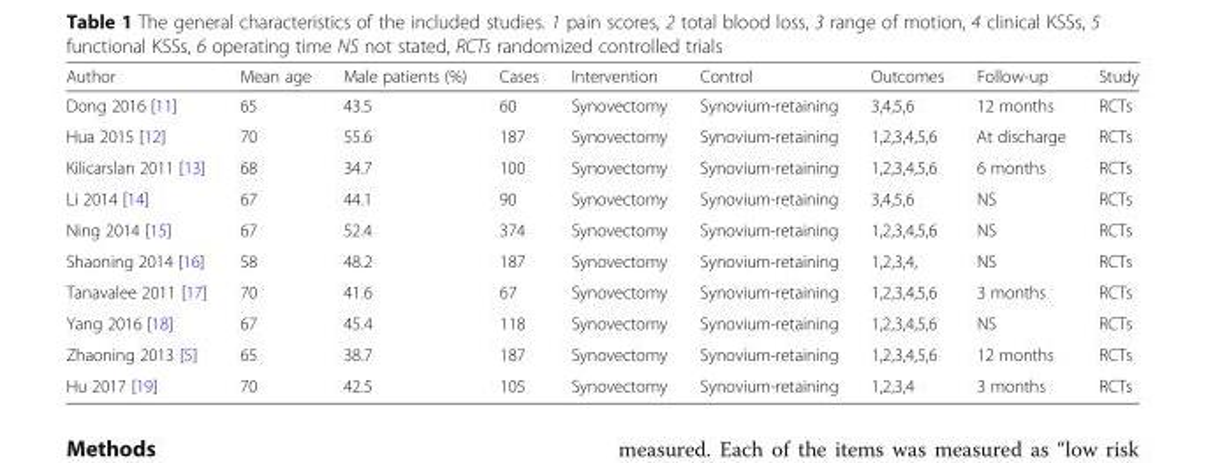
<table><thead><tr><td>Author</td><td>Mean age</td><td>Male patients (%)</td><td>Cases</td><td>Intervention</td><td>Control</td><td>Outcomes</td><td>Follow-up</td><td>Study</td></tr></thead><tbody><tr><td>Dong 2016 [11]</td><td>65</td><td>43.5</td><td>60</td><td>Synovectomy</td><td>Synovium-retaining</td><td>3,4,5,6</td><td>12 months</td><td>RCTs</td></tr><tr><td>Hua 2015 [12]</td><td>70</td><td>55.6</td><td>187</td><td>Synovectomy</td><td>Synovium-retaining</td><td>1,2,3,4,5,6</td><td>At discharge</td><td>RCTs</td></tr><tr><td>Kilicarslan 2011 [13]</td><td>68</td><td>34.7</td><td>100</td><td>Synovectomy</td><td>Synovium-retaining</td><td>1,2,3,4,5,6</td><td>6 months</td><td>RCTs</td></tr><tr><td>Li 2014 [14]</td><td>67</td><td>44.1</td><td>90</td><td>Synovectomy</td><td>Synovium-retaining</td><td>3,4,5,6</td><td>NS</td><td>RCTs</td></tr><tr><td>Ning 2014 [15]</td><td>67</td><td>52.4</td><td>374</td><td>Synovectomy</td><td>Synovium-retaining</td><td>1,2,3,4,5,6</td><td>NS</td><td>RCTs</td></tr><tr><td>Shaoning 2014 [16]</td><td>58</td><td>48.2</td><td>187</td><td>Synovectomy</td><td>Synovium-retaining</td><td>1,2,3,4,</td><td>NS</td><td>RCTs</td></tr><tr><td>Tanavalee 2011 [17]</td><td>70</td><td>41.6</td><td>67</td><td>Synovectomy</td><td>Synovium-retaining</td><td>1,2,3,4,5,6</td><td>3 months</td><td>RCTs</td></tr><tr><td>Yang 2016 [18]</td><td>67</td><td>45.4</td><td>118</td><td>Synovectomy</td><td>Synovium-retaining</td><td>1,2,3,4,5,6</td><td>NS</td><td>RCTs</td></tr><tr><td>Zhaoning 2013 [5]</td><td>65</td><td>38.7</td><td>187</td><td>Synovectomy</td><td>Synovium-retaining</td><td>1,2,3,4,5,6</td><td>12 months</td><td>RCTs</td></tr><tr><td>Hu 2017 [19]</td><td>70</td><td>42.5</td><td>105</td><td>Synovectomy</td><td>Synovium-retaining</td><td>1,2,3,4</td><td>3 months</td><td>RCTs</td></tr></tbody></table>